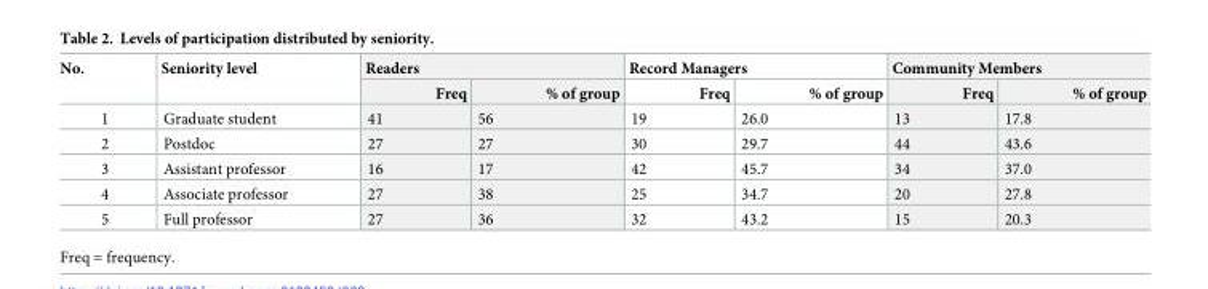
<table><thead><tr><td rowspan="2">No.</td><td rowspan="2">Seniority level</td><td colspan="2">Readers</td><td colspan="2">Record Managers</td><td colspan="2">Community Members</td></tr><tr><td>Freq</td><td>% of group</td><td>Freq</td><td>% of group</td><td>Freq</td><td>% of group</td></tr></thead><tbody><tr><td>1</td><td>Graduate student</td><td>41</td><td>56</td><td>19</td><td>26.0</td><td>13</td><td>17.8</td></tr><tr><td>2</td><td>Postdoc</td><td>27</td><td>27</td><td>30</td><td>29.7</td><td>44</td><td>43.6</td></tr><tr><td>3</td><td>Assistant professor</td><td>16</td><td>17</td><td>42</td><td>45.7</td><td>34</td><td>37.0</td></tr><tr><td>4</td><td>Associate professor</td><td>27</td><td>38</td><td>25</td><td>34.7</td><td>20</td><td>27.8</td></tr><tr><td>5</td><td>Full professor</td><td>27</td><td>36</td><td>32</td><td>43.2</td><td>15</td><td>20.3</td></tr></tbody></table>